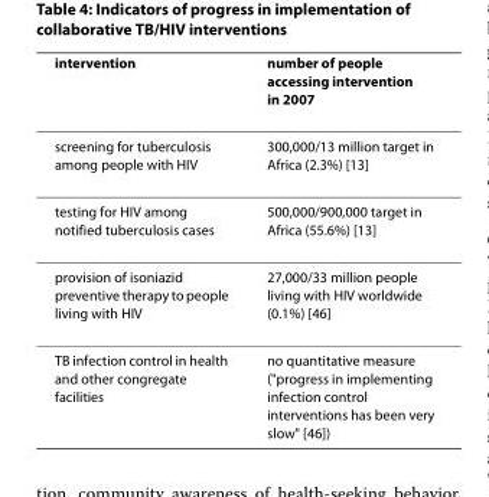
<table><thead><tr><td>intervention</td><td>number of people accessing intervention in 2007</td></tr></thead><tbody><tr><td>screening for tuberculosis among people with HIV</td><td>300,000/13 million target in Africa (2.3%) [13]</td></tr><tr><td>testing for HIV among notified tuberculosis cases</td><td>500,000/900,000 target in Africa (55.6%) [13]</td></tr><tr><td>provision of isoniazid preventive therapy to people living with HIV</td><td>27,000/33 million people living with HIV worldwide (0.1%) [46]</td></tr><tr><td>TB infection control in health and other congregate facilities</td><td>no quantitative measure (&quot;progress in implementing infection control interventions has been very slow&quot; [46])</td></tr></tbody></table>